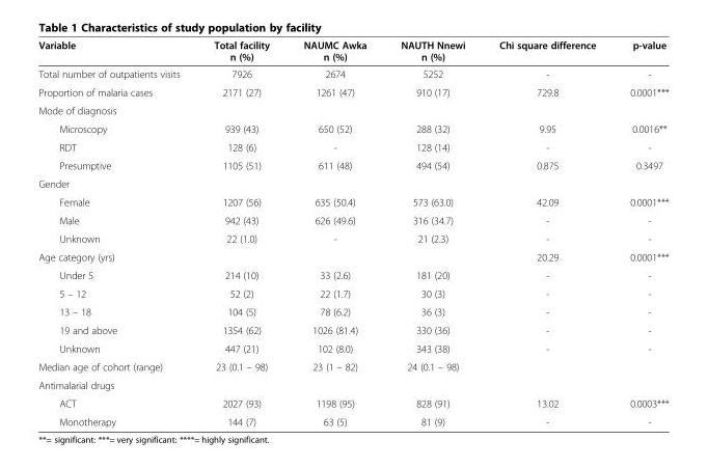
<table><thead><tr><td>Variable</td><td>Total facility n (%)</td><td>NAUMC Awka n (%)</td><td>NAUTH Nnewi n (%)</td><td>Chi square difference</td><td>p-value</td></tr></thead><tbody><tr><td>Total number of outpatients visits</td><td>7926</td><td>2674</td><td>5252</td><td>-</td><td>-</td></tr><tr><td>Proportion of malaria cases</td><td>2171 (27)</td><td>1261 (47)</td><td>910 (17)</td><td>729.8</td><td>0.0001***</td></tr><tr><td colspan="6">Mode of diagnosis</td></tr><tr><td>Microscopy</td><td>939 (43)</td><td>650 (52)</td><td>288 (32)</td><td>9.95</td><td>0.0016**</td></tr><tr><td>RDT</td><td>128 (6)</td><td>-</td><td>128 (14)</td><td>-</td><td>-</td></tr><tr><td>Presumptive</td><td>1105 (51)</td><td>611 (48)</td><td>494 (54)</td><td>0.875</td><td>0.3497</td></tr><tr><td colspan="6">Gender</td></tr><tr><td>Female</td><td>1207 (56)</td><td>635 (50.4)</td><td>573 (63.0)</td><td>42.09</td><td>0.0001***</td></tr><tr><td>Male</td><td>942 (43)</td><td>626 (49.6)</td><td>316 (34.7)</td><td>-</td><td>-</td></tr><tr><td>Unknown</td><td>22 (1.0)</td><td>-</td><td>21 (2.3)</td><td>-</td><td>-</td></tr><tr><td>Age category (yrs)</td><td></td><td></td><td></td><td>20.29</td><td>0.0001***</td></tr><tr><td>Under 5</td><td>214 (10)</td><td>33 (2.6)</td><td>181 (20)</td><td>-</td><td>-</td></tr><tr><td>5 – 12</td><td>52 (2)</td><td>22 (1.7)</td><td>30 (3)</td><td>-</td><td>-</td></tr><tr><td>13 – 18</td><td>104 (5)</td><td>78 (6.2)</td><td>36 (3)</td><td>-</td><td>-</td></tr><tr><td>19 and above</td><td>1354 (62)</td><td>1026 (81.4)</td><td>330 (36)</td><td>-</td><td>-</td></tr><tr><td>Unknown</td><td>447 (21)</td><td>102 (8.0)</td><td>343 (38)</td><td>-</td><td>-</td></tr><tr><td>Median age of cohort (range)</td><td>23 (0.1 – 98)</td><td>23 (1 – 82)</td><td>24 (0.1 – 98)</td><td></td><td></td></tr><tr><td colspan="6">Antimalarial drugs</td></tr><tr><td>ACT</td><td>2027 (93)</td><td>1198 (95)</td><td>828 (91)</td><td>13.02</td><td>0.0003***</td></tr><tr><td>Monotherapy</td><td>144 (7)</td><td>63 (5)</td><td>81 (9)</td><td>-</td><td>-</td></tr></tbody></table>